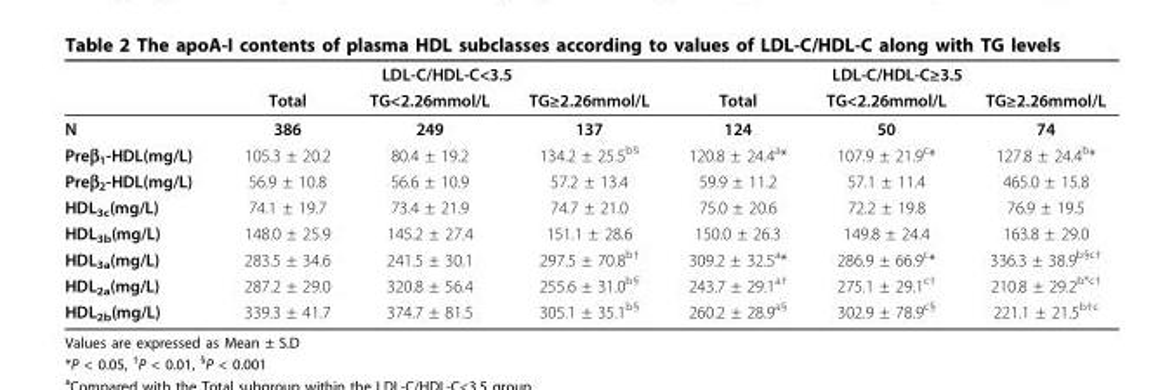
<table><thead><tr><td rowspan="2"></td><td colspan="3">LDL-C/HDL-C&lt;3.5</td><td colspan="3">LDL-C/HDL-C≥3.5</td></tr><tr><td>Total</td><td>TG&lt;2.26mmol/L</td><td>TG≥2.26mmol/L</td><td>Total</td><td>TG&lt;2.26mmol/L</td><td>TG≥2.26mmol/L</td></tr></thead><tbody><tr><td>N</td><td>386</td><td>249</td><td>137</td><td>124</td><td>50</td><td>74</td></tr><tr><td>Preβ<sub>1</sub>-HDL(mg/L)</td><td>105.3 ± 20.2</td><td>80.4 ± 19.2</td><td>134.2 ± 25.5<sup>b§</sup></td><td>120.8 ± 24.4<sup>a</sup>*</td><td>107.9 ± 21.9<sup>c</sup>*</td><td>127.8 ± 24.4<sup>b</sup>*</td></tr><tr><td>Preβ<sub>2</sub>-HDL(mg/L)</td><td>56.9 ± 10.8</td><td>56.6 ± 10.9</td><td>57.2 ± 13.4</td><td>59.9 ± 11.2</td><td>57.1 ± 11.4</td><td>465.0 ± 15.8</td></tr><tr><td>HDL<sub>3c</sub>(mg/L)</td><td>74.1 ± 19.7</td><td>73.4 ± 21.9</td><td>74.7 ± 21.0</td><td>75.0 ± 20.6</td><td>72.2 ± 19.8</td><td>76.9 ± 19.5</td></tr><tr><td>HDL<sub>3b</sub>(mg/L)</td><td>148.0 ± 25.9</td><td>145.2 ± 27.4</td><td>151.1 ± 28.6</td><td>150.0 ± 26.3</td><td>149.8 ± 24.4</td><td>163.8 ± 29.0</td></tr><tr><td>HDL<sub>3a</sub>(mg/L)</td><td>283.5 ± 34.6</td><td>241.5 ± 30.1</td><td>297.5 ± 70.8<sup>b†</sup></td><td>309.2 ± 32.5<sup>a</sup>*</td><td>286.9 ± 66.9<sup>c</sup>*</td><td>336.3 ± 38.9<sup>b§c†</sup></td></tr><tr><td>HDL<sub>2a</sub>(mg/L)</td><td>287.2 ± 29.0</td><td>320.8 ± 56.4</td><td>255.6 ± 31.0<sup>b§</sup></td><td>243.7 ± 29.1<sup>a†</sup></td><td>275.1 ± 29.1<sup>c†</sup></td><td>210.8 ± 29.2<sup>b*c†</sup></td></tr><tr><td>HDL<sub>2b</sub>(mg/L)</td><td>339.3 ± 41.7</td><td>374.7 ± 81.5</td><td>305.1 ± 35.1<sup>b§</sup></td><td>260.2 ± 28.9<sup>a§</sup></td><td>302.9 ± 78.9<sup>c§</sup></td><td>221.1 ± 21.5<sup>b†c</sup></td></tr></tbody></table>